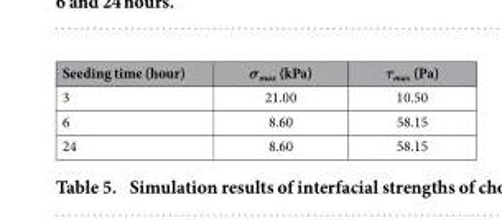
<table><thead><tr><td>Seeding time (hour)</td><td>σ<sub>max</sub> (kPa)</td><td>τ<sub>max</sub> (Pa)</td></tr></thead><tbody><tr><td>3</td><td>21.00</td><td>10.50</td></tr><tr><td>6</td><td>8.60</td><td>58.15</td></tr><tr><td>24</td><td>8.60</td><td>58.15</td></tr></tbody></table>